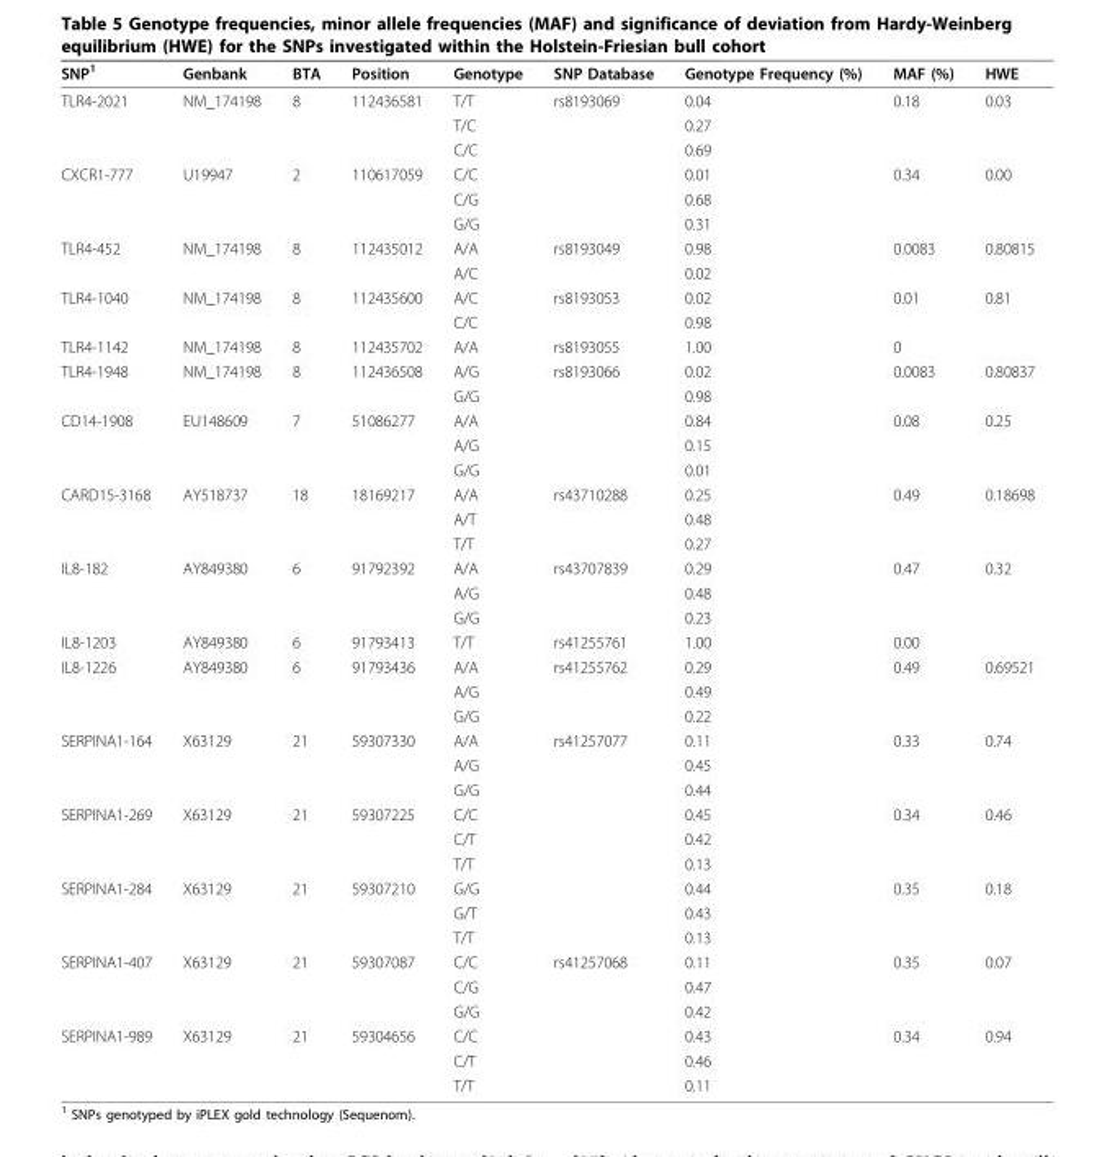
<table><thead><tr><td>SNP<sup>1</sup></td><td>Genbank</td><td>BTA</td><td>Position</td><td>Genotype</td><td>SNP Database</td><td>Genotype Frequency (%)</td><td>MAF (%)</td><td>HWE</td></tr></thead><tbody><tr><td rowspan="3">TLR4-2021</td><td>NM_174198</td><td>8</td><td>112436581</td><td>T/T</td><td>rs8193069</td><td>0.04</td><td>0.18</td><td>0.03</td></tr><tr><td></td><td></td><td></td><td>T/C</td><td></td><td>0.27</td><td></td><td></td></tr><tr><td></td><td></td><td></td><td>C/C</td><td></td><td>0.69</td><td></td><td></td></tr><tr><td rowspan="3">CXCR1-777</td><td>U19947</td><td>2</td><td>110617059</td><td>C/C</td><td></td><td>0.01</td><td>0.34</td><td>0.00</td></tr><tr><td></td><td></td><td></td><td>C/G</td><td></td><td>0.68</td><td></td><td></td></tr><tr><td></td><td></td><td></td><td>G/G</td><td></td><td>0.31</td><td></td><td></td></tr><tr><td rowspan="2">TLR4-452</td><td>NM_174198</td><td>8</td><td>112435012</td><td>A/A</td><td>rs8193049</td><td>0.98</td><td>0.0083</td><td>0.80815</td></tr><tr><td></td><td></td><td></td><td>A/C</td><td></td><td>0.02</td><td></td><td></td></tr><tr><td rowspan="2">TLR4-1040</td><td>NM_174198</td><td>8</td><td>112435600</td><td>A/C</td><td>rs8193053</td><td>0.02</td><td>0.01</td><td>0.81</td></tr><tr><td></td><td></td><td></td><td>C/C</td><td></td><td>0.98</td><td></td><td></td></tr><tr><td>TLR4-1142</td><td>NM_174198</td><td>8</td><td>112435702</td><td>A/A</td><td>rs8193055</td><td>1.00</td><td>0</td><td></td></tr><tr><td rowspan="2">TLR4-1948</td><td>NM_174198</td><td>8</td><td>112436508</td><td>A/G</td><td>rs8193066</td><td>0.02</td><td>0.0083</td><td>0.80837</td></tr><tr><td></td><td></td><td></td><td>G/G</td><td></td><td>0.98</td><td></td><td></td></tr><tr><td rowspan="3">CD14-1908</td><td>EU148609</td><td>7</td><td>51086277</td><td>A/A</td><td></td><td>0.84</td><td>0.08</td><td>0.25</td></tr><tr><td></td><td></td><td></td><td>A/G</td><td></td><td>0.15</td><td></td><td></td></tr><tr><td></td><td></td><td></td><td>G/G</td><td></td><td>0.01</td><td></td><td></td></tr><tr><td rowspan="3">CARD15-3168</td><td>AY518737</td><td>18</td><td>18169217</td><td>A/A</td><td>rs43710288</td><td>0.25</td><td>0.49</td><td>0.18698</td></tr><tr><td></td><td></td><td></td><td>A/T</td><td></td><td>0.48</td><td></td><td></td></tr><tr><td></td><td></td><td></td><td>T/T</td><td></td><td>0.27</td><td></td><td></td></tr><tr><td rowspan="3">IL8-182</td><td>AY849380</td><td>6</td><td>91792392</td><td>A/A</td><td>rs43707839</td><td>0.29</td><td>0.47</td><td>0.32</td></tr><tr><td></td><td></td><td></td><td>A/G</td><td></td><td>0.48</td><td></td><td></td></tr><tr><td></td><td></td><td></td><td>G/G</td><td></td><td>0.23</td><td></td><td></td></tr><tr><td>IL8-1203</td><td>AY849380</td><td>6</td><td>91793413</td><td>T/T</td><td>rs41255761</td><td>1.00</td><td>0.00</td><td></td></tr><tr><td rowspan="3">IL8-1226</td><td>AY849380</td><td>6</td><td>91793436</td><td>A/A</td><td>rs41255762</td><td>0.29</td><td>0.49</td><td>0.69521</td></tr><tr><td></td><td></td><td></td><td>A/G</td><td></td><td>0.49</td><td></td><td></td></tr><tr><td></td><td></td><td></td><td>G/G</td><td></td><td>0.22</td><td></td><td></td></tr><tr><td rowspan="3">SERPINA1-164</td><td>X63129</td><td>21</td><td>59307330</td><td>A/A</td><td>rs41257077</td><td>0.11</td><td>0.33</td><td>0.74</td></tr><tr><td></td><td></td><td></td><td>A/G</td><td></td><td>0.45</td><td></td><td></td></tr><tr><td></td><td></td><td></td><td>G/G</td><td></td><td>0.44</td><td></td><td></td></tr><tr><td rowspan="3">SERPINA1-269</td><td>X63129</td><td>21</td><td>59307225</td><td>C/C</td><td></td><td>0.45</td><td>0.34</td><td>0.46</td></tr><tr><td></td><td></td><td></td><td>C/T</td><td></td><td>0.42</td><td></td><td></td></tr><tr><td></td><td></td><td></td><td>T/T</td><td></td><td>0.13</td><td></td><td></td></tr><tr><td rowspan="3">SERPINA1-284</td><td>X63129</td><td>21</td><td>59307210</td><td>G/G</td><td></td><td>0.44</td><td>0.35</td><td>0.18</td></tr><tr><td></td><td></td><td></td><td>G/T</td><td></td><td>0.43</td><td></td><td></td></tr><tr><td></td><td></td><td></td><td>T/T</td><td></td><td>0.13</td><td></td><td></td></tr><tr><td rowspan="3">SERPINA1-407</td><td>X63129</td><td>21</td><td>59307087</td><td>C/C</td><td>rs41257068</td><td>0.11</td><td>0.35</td><td>0.07</td></tr><tr><td></td><td></td><td></td><td>C/G</td><td></td><td>0.47</td><td></td><td></td></tr><tr><td></td><td></td><td></td><td>G/G</td><td></td><td>0.42</td><td></td><td></td></tr><tr><td rowspan="3">SERPINA1-989</td><td>X63129</td><td>21</td><td>59304656</td><td>C/C</td><td></td><td>0.43</td><td>0.34</td><td>0.94</td></tr><tr><td></td><td></td><td></td><td>C/T</td><td></td><td>0.46</td><td></td><td></td></tr><tr><td></td><td></td><td></td><td>T/T</td><td></td><td>0.11</td><td></td><td></td></tr></tbody></table>